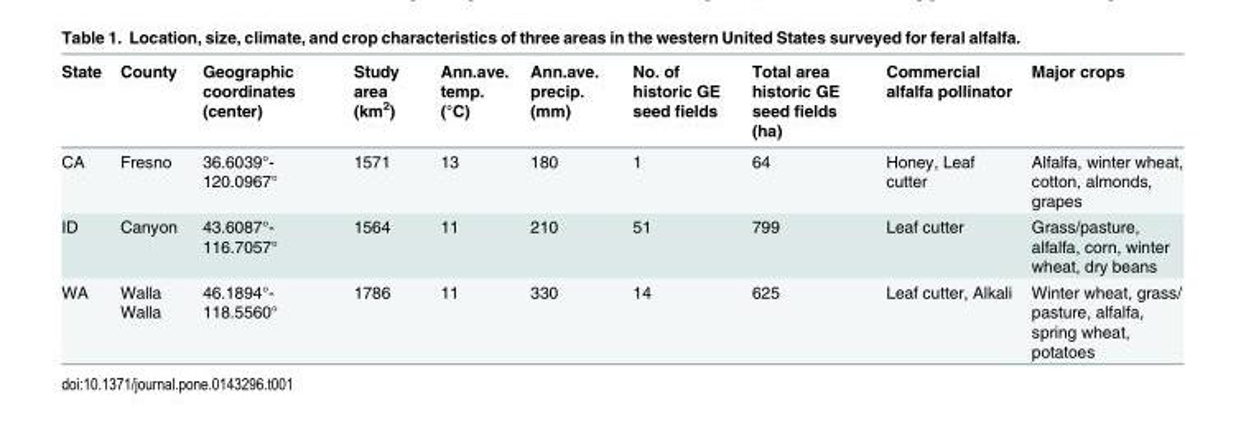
<table><thead><tr><td>State</td><td>County</td><td>Geographic coordinates (center)</td><td>Study area (km<sup>2</sup>)</td><td>Ann.ave. temp. (°C)</td><td>Ann.ave. precip. (mm)</td><td>No. of historic GE seed fields</td><td>Total area historic GE seed fields (ha)</td><td>Commercial alfalfa pollinator</td><td>Major crops</td></tr></thead><tbody><tr><td>CA</td><td>Fresno</td><td>36.6039°- 120.0967°</td><td>1571</td><td>13</td><td>180</td><td>1</td><td>64</td><td>Honey, Leaf cutter</td><td>Alfalfa, winter wheat, cotton, almonds, grapes</td></tr><tr><td>ID</td><td>Canyon</td><td>43.6087°- 116.7057°</td><td>1564</td><td>11</td><td>210</td><td>51</td><td>799</td><td>Leaf cutter</td><td>Grass/pasture, alfalfa, corn, winter wheat, dry beans</td></tr><tr><td>WA</td><td>Walla Walla</td><td>46.1894°- 118.5560°</td><td>1786</td><td>11</td><td>330</td><td>14</td><td>625</td><td>Leaf cutter, Alkali</td><td>Winter wheat, grass/ pasture, alfalfa, spring wheat, potatoes</td></tr></tbody></table>